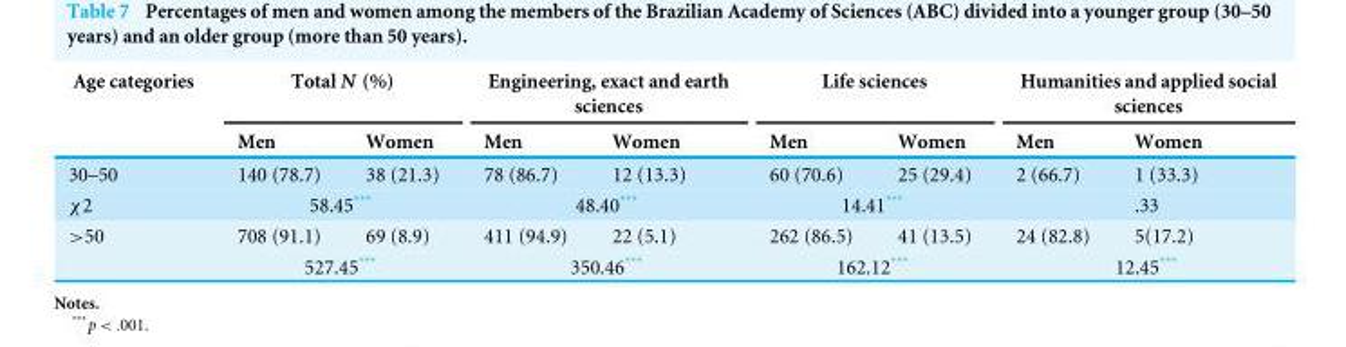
<table><thead><tr><td rowspan="2">Age categories</td><td colspan="2">Total N (%)</td><td colspan="2">Engineering, exact and earth sciences</td><td colspan="2">Life sciences</td><td colspan="2">Humanities and applied social sciences</td></tr><tr><td>Men</td><td>Women</td><td>Men</td><td>Women</td><td>Men</td><td>Women</td><td>Men</td><td>Women</td></tr></thead><tbody><tr><td>30–50</td><td>140 (78.7)</td><td>38 (21.3)</td><td>78 (86.7)</td><td>12 (13.3)</td><td>60 (70.6)</td><td>25 (29.4)</td><td>2 (66.7)</td><td>1 (33.3)</td></tr><tr><td>χ2</td><td colspan="2">58.45***</td><td colspan="2">48.40***</td><td colspan="2">14.41***</td><td colspan="2">.33</td></tr><tr><td rowspan="2">&gt;50</td><td>708 (91.1)</td><td>69 (8.9)</td><td>411 (94.9)</td><td>22 (5.1)</td><td>262 (86.5)</td><td>41 (13.5)</td><td>24 (82.8)</td><td>5(17.2)</td></tr><tr><td colspan="2">527.45***</td><td colspan="2">350.46***</td><td colspan="2">162.12***</td><td colspan="2">12.45***</td></tr></tbody></table>